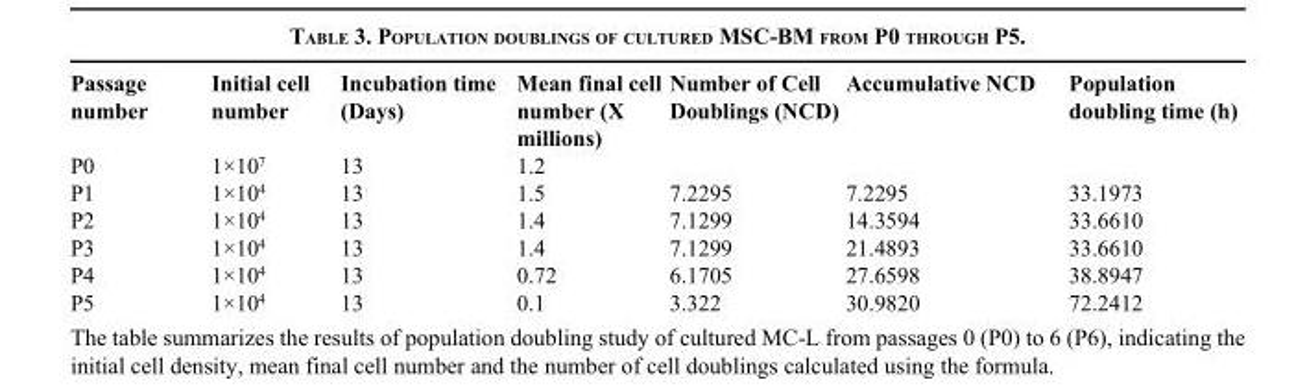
<table><thead><tr><td>Passage number</td><td>Initial cell number</td><td>Incubation time (Days)</td><td>Mean final cell number (X millions)</td><td>Number of Cell Doublings (NCD)</td><td>Accumulative NCD</td><td>Population doubling time (h)</td></tr></thead><tbody><tr><td>P0</td><td>1×10<sup>7</sup></td><td>13</td><td>1.2</td><td></td><td></td><td></td></tr><tr><td>P1</td><td>1×10<sup>4</sup></td><td>13</td><td>1.5</td><td>7.2295</td><td>7.2295</td><td>33.1973</td></tr><tr><td>P2</td><td>1×10<sup>4</sup></td><td>13</td><td>1.4</td><td>7.1299</td><td>14.3594</td><td>33.6610</td></tr><tr><td>P3</td><td>1×10<sup>4</sup></td><td>13</td><td>1.4</td><td>7.1299</td><td>21.4893</td><td>33.6610</td></tr><tr><td>P4</td><td>1×10<sup>4</sup></td><td>13</td><td>0.72</td><td>6.1705</td><td>27.6598</td><td>38.8947</td></tr><tr><td>P5</td><td>1×10<sup>4</sup></td><td>13</td><td>0.1</td><td>3.322</td><td>30.9820</td><td>72.2412</td></tr></tbody></table>